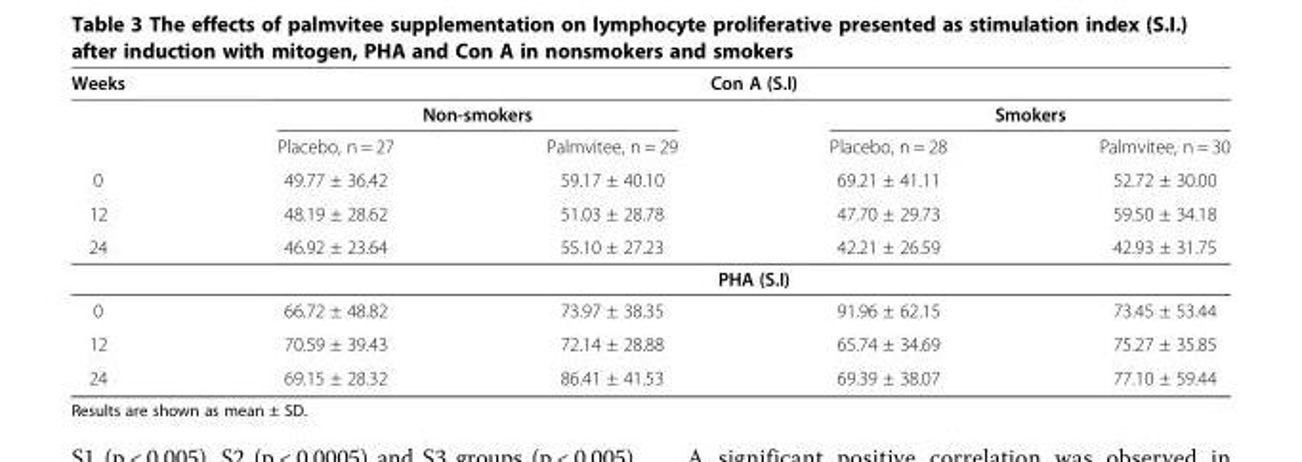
<table><thead><tr><td rowspan="3">Weeks</td><td colspan="4">Con A (S.I)</td></tr><tr><td colspan="2">Non-smokers</td><td colspan="2">Smokers</td></tr><tr><td>Placebo, n = 27</td><td>Palmvitee, n = 29</td><td>Placebo, n = 28</td><td>Palmvitee, n = 30</td></tr></thead><tbody><tr><td>0</td><td>49.77 ± 36.42</td><td>59.17 ± 40.10</td><td>69.21 ± 41.11</td><td>52.72 ± 30.00</td></tr><tr><td>12</td><td>48.19 ± 28.62</td><td>51.03 ± 28.78</td><td>47.70 ± 29.73</td><td>59.50 ± 34.18</td></tr><tr><td rowspan="2">24</td><td>46.92 ± 23.64</td><td>55.10 ± 27.23</td><td>42.21 ± 26.59</td><td>42.93 ± 31.75</td></tr><tr><td colspan="4">PHA (S.I)</td></tr><tr><td>0</td><td>66.72 ± 48.82</td><td>73.97 ± 38.35</td><td>91.96 ± 62.15</td><td>73.45 ± 53.44</td></tr><tr><td>12</td><td>70.59 ± 39.43</td><td>72.14 ± 28.88</td><td>65.74 ± 34.69</td><td>75.27 ± 35.85</td></tr><tr><td>24</td><td>69.15 ± 28.32</td><td>86.41 ± 41.53</td><td>69.39 ± 38.07</td><td>77.10 ± 59.44</td></tr></tbody></table>